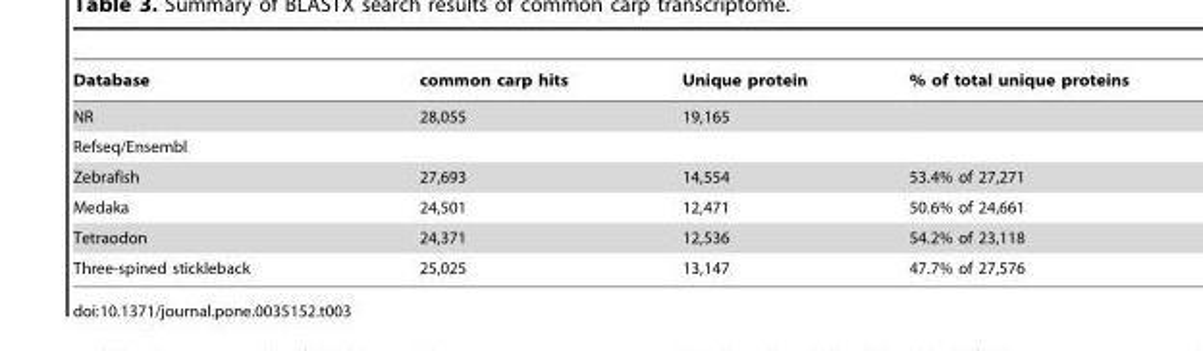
<table><thead><tr><td>Database</td><td>common carp hits</td><td>Unique protein</td><td>% of total unique proteins</td></tr></thead><tbody><tr><td>NR</td><td>28,055</td><td>19,165</td><td></td></tr><tr><td colspan="4">Refseq/Ensembl</td></tr><tr><td>Zebrafish</td><td>27,693</td><td>14,554</td><td>53.4% of 27,271</td></tr><tr><td>Medaka</td><td>24,501</td><td>12,471</td><td>50.6% of 24,661</td></tr><tr><td>Tetraodon</td><td>24,371</td><td>12,536</td><td>54.2% of 23,118</td></tr><tr><td>Three-spined stickleback</td><td>25,025</td><td>13,147</td><td>47.7% of 27,576</td></tr></tbody></table>